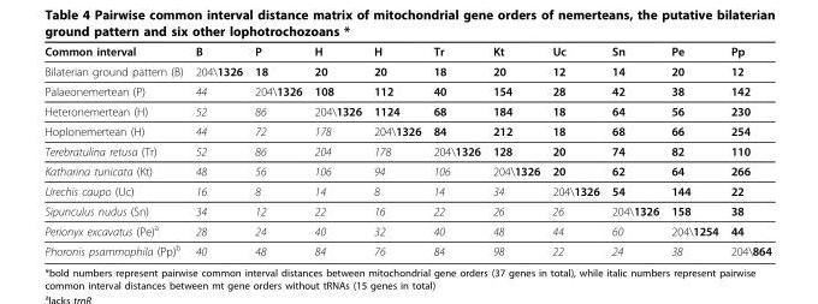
<table><thead><tr><td>Common interval</td><td>B</td><td>P</td><td>H</td><td>H</td><td>Tr</td><td>Kt</td><td>Uc</td><td>Sn</td><td>Pe</td><td>Pp</td></tr></thead><tbody><tr><td>Bilaterian ground pattern (B)</td><td>204\1326</td><td>18</td><td>20</td><td>20</td><td>18</td><td>20</td><td>12</td><td>14</td><td>20</td><td>12</td></tr><tr><td>Palaeonemertean (P)</td><td>44</td><td>204\1326</td><td>108</td><td>112</td><td>40</td><td>154</td><td>28</td><td>42</td><td>38</td><td>142</td></tr><tr><td>Heteronemertean (H)</td><td>52</td><td>86</td><td>204\1326</td><td>1124</td><td>68</td><td>184</td><td>18</td><td>64</td><td>56</td><td>230</td></tr><tr><td>Hoplonemertean (H)</td><td>44</td><td>72</td><td>178</td><td>204\1326</td><td>84</td><td>212</td><td>18</td><td>68</td><td>66</td><td>254</td></tr><tr><td>Terebratulina retusa (Tr)</td><td>52</td><td>86</td><td>204</td><td>178</td><td>204\1326</td><td>128</td><td>20</td><td>74</td><td>82</td><td>110</td></tr><tr><td>Katharina tunicata (Kt)</td><td>48</td><td>56</td><td>106</td><td>94</td><td>106</td><td>204\1326</td><td>20</td><td>62</td><td>64</td><td>266</td></tr><tr><td>Urechis caupo (Uc)</td><td>16</td><td>8</td><td>14</td><td>8</td><td>14</td><td>34</td><td>204\1326</td><td>54</td><td>144</td><td>22</td></tr><tr><td>Sipunculus nudus (Sn)</td><td>34</td><td>12</td><td>22</td><td>16</td><td>22</td><td>26</td><td>26</td><td>204\1326</td><td>158</td><td>38</td></tr><tr><td>Perionyx excavatus (Pe)<sup>a</sup></td><td>28</td><td>24</td><td>40</td><td>32</td><td>40</td><td>48</td><td>44</td><td>60</td><td>204\1254</td><td>44</td></tr><tr><td>Phoronis psammophila (Pp)<sup>b</sup></td><td>40</td><td>48</td><td>84</td><td>76</td><td>84</td><td>98</td><td>22</td><td>24</td><td>38</td><td>204\864</td></tr></tbody></table>